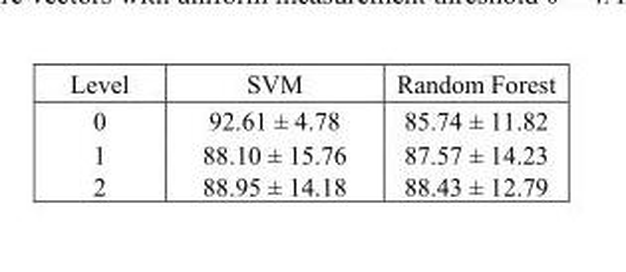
<table><thead><tr><td>Level</td><td>SVM</td><td>Random Forest</td></tr></thead><tbody><tr><td>0</td><td>92.61 ± 4.78</td><td>85.74 ± 11.82</td></tr><tr><td>1</td><td>88.10 ± 15.76</td><td>87.57 ± 14.23</td></tr><tr><td>2</td><td>88.95 ± 14.18</td><td>88.43 ± 12.79</td></tr></tbody></table>